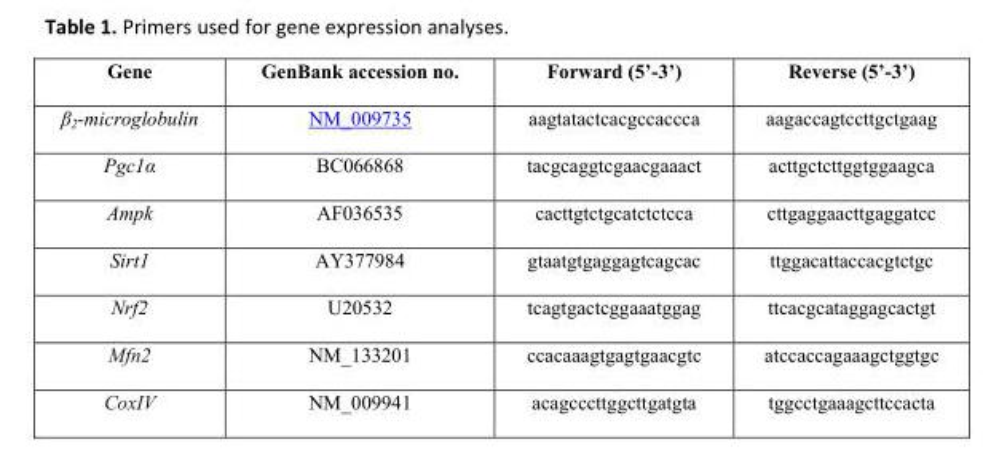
<table><thead><tr><td>Gene</td><td>GenBank accession no.</td><td>Forward (5’-3’)</td><td>Reverse (5’-3’)</td></tr></thead><tbody><tr><td>β<sub>2</sub>-microglobulin</td><td>NM_009735</td><td>aagtatactcacgccaccca</td><td>aagaccagtccttgctgaag</td></tr><tr><td>Pgc1α</td><td>BC066868</td><td>tacgcaggtcgaacgaaact</td><td>acttgctcttggtggaagca</td></tr><tr><td>Ampk</td><td>AF036535</td><td>cacttgtctgcatctctcca</td><td>cttgaggaacttgaggatcc</td></tr><tr><td>Sirt1</td><td>AY377984</td><td>gtaatgtgaggagtcagcac</td><td>ttggacattaccacgtctgc</td></tr><tr><td>Nrf2</td><td>U20532</td><td>tcagtgactcggaaatggag</td><td>ttcacgcataggagcactgt</td></tr><tr><td>Mfn2</td><td>NM_133201</td><td>ccacaaagtgagtgaacgtc</td><td>atccaccagaaagctggtgc</td></tr><tr><td>CoxIV</td><td>NM_009941</td><td>acagcccttggcttgatgta</td><td>tggcctgaaagcttccacta</td></tr></tbody></table>